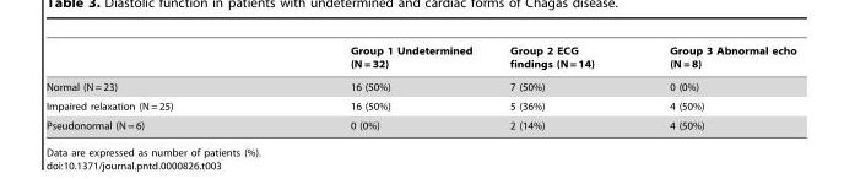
<table><thead><tr><td></td><td>Group 1 Undetermined (N = 32)</td><td>Group 2 ECG findings (N = 14)</td><td>Group 3 Abnormal echo (N = 8)</td></tr></thead><tbody><tr><td>Normal (N = 23)</td><td>16 (50%)</td><td>7 (50%)</td><td>0 (0%)</td></tr><tr><td>Impaired relaxation (N = 25)</td><td>16 (50%)</td><td>5 (36%)</td><td>4 (50%)</td></tr><tr><td>Pseudonormal (N = 6)</td><td>0 (0%)</td><td>2 (14%)</td><td>4 (50%)</td></tr></tbody></table>